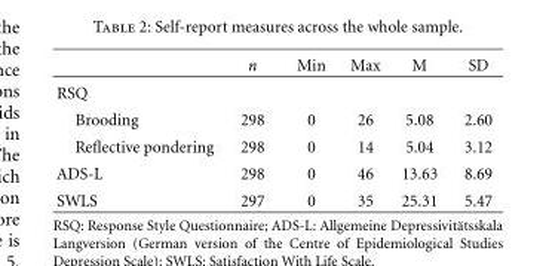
<table><thead><tr><td></td><td>n</td><td>Min</td><td>Max</td><td>M</td><td>SD</td></tr></thead><tbody><tr><td colspan="6">RSQ</td></tr><tr><td>Brooding</td><td>298</td><td>0</td><td>26</td><td>5.08</td><td>2.60</td></tr><tr><td>Reflective pondering</td><td>298</td><td>0</td><td>14</td><td>5.04</td><td>3.12</td></tr><tr><td>ADS-L</td><td>298</td><td>0</td><td>46</td><td>13.63</td><td>8.69</td></tr><tr><td>SWLS</td><td>297</td><td>0</td><td>35</td><td>25.31</td><td>5.47</td></tr></tbody></table>